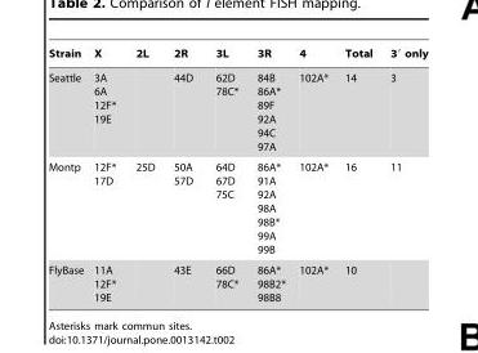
<table><thead><tr><td>Strain</td><td>X</td><td>2L</td><td>2R</td><td>3L</td><td>3R</td><td>4</td><td>Total</td><td>3′ only</td></tr></thead><tbody><tr><td>Seattle</td><td>3A 6A 12F* 19E</td><td></td><td>44D</td><td>62D 78C*</td><td>84B 86A* 89F 92A 94C 97A</td><td>102A*</td><td>14</td><td>3</td></tr><tr><td>Montp</td><td>12F* 17D</td><td>25D</td><td>50A 57D</td><td>64D 67D 75C</td><td>86A* 91A 92A 98A 98B* 99A 99B</td><td>102A*</td><td>16</td><td>11</td></tr><tr><td>FlyBase</td><td>11A 12F* 19E</td><td></td><td>43E</td><td>66D 78C*</td><td>86A* 98B2* 98B8</td><td>102A*</td><td>10</td><td></td></tr></tbody></table>